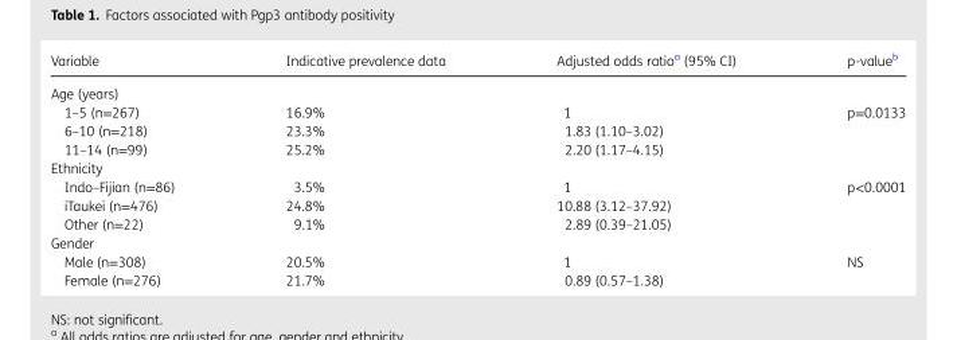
<table><thead><tr><td>Variable</td><td>Indicative prevalence data</td><td>Adjusted odds ratio<sup>a</sup> (95% CI)</td><td>p-value<sup>b</sup></td></tr></thead><tbody><tr><td colspan="4">Age (years)</td></tr><tr><td>1–5 (n=267)</td><td>16.9%</td><td>1</td><td rowspan="3">p=0.0133</td></tr><tr><td>6–10 (n=218)</td><td>23.3%</td><td>1.83 (1.10–3.02)</td></tr><tr><td>11–14 (n=99)</td><td>25.2%</td><td>2.20 (1.17–4.15)</td></tr><tr><td colspan="4">Ethnicity</td></tr><tr><td>Indo–Fijian (n=86)</td><td>3.5%</td><td>1</td><td rowspan="3">p&lt;0.0001</td></tr><tr><td>iTaukei (n=476)</td><td>24.8%</td><td>10.88 (3.12–37.92)</td></tr><tr><td>Other (n=22)</td><td>9.1%</td><td>2.89 (0.39–21.05)</td></tr><tr><td colspan="4">Gender</td></tr><tr><td>Male (n=308)</td><td>20.5%</td><td>1</td><td rowspan="2">NS</td></tr><tr><td>Female (n=276)</td><td>21.7%</td><td>0.89 (0.57–1.38)</td></tr></tbody></table>